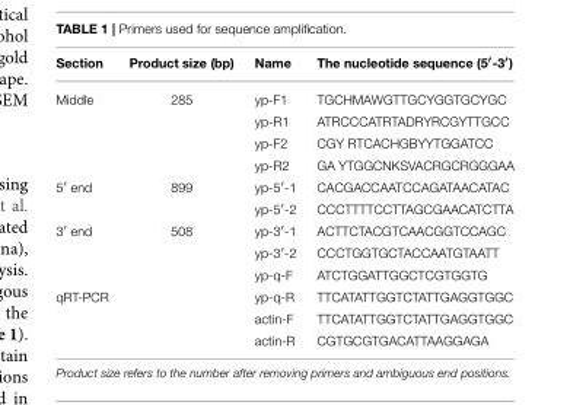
<table><thead><tr><td>Section</td><td>Product size (bp)</td><td>Name</td><td>The nucleotide sequence (5′-3′)</td></tr></thead><tbody><tr><td rowspan="4">Middle</td><td>285</td><td>yp-F1</td><td>TGCHMAWGTTGCYGGTGCYGC</td></tr><tr><td></td><td>yp-R1</td><td>ATRCCCATRTADRYRCGYTTGCC</td></tr><tr><td></td><td>yp-F2</td><td>CGY RTCACHGBYYTGGATCC</td></tr><tr><td></td><td>yp-R2</td><td>GA YTGGCNKSVACRGCRGGGAA</td></tr><tr><td rowspan="2">5′ end</td><td>899</td><td>yp-5′-1</td><td>CACGACCAATCCAGATAACATAC</td></tr><tr><td></td><td>yp-5′-2</td><td>CCCTTTTCCTTAGCGAACATCTTA</td></tr><tr><td rowspan="3">3′ end</td><td>508</td><td>yp-3′-1</td><td>ACTTCTACGTCAACGGTCCAGC</td></tr><tr><td></td><td>yp-3′-2</td><td>CCCTGGTGCTACCAATGTAATT</td></tr><tr><td></td><td>yp-q-F</td><td>ATCTGGATTGGCTCGTGGTG</td></tr><tr><td rowspan="3">qRT-PCR</td><td></td><td>yp-q-R</td><td>TTCATATTGGTCTATTGAGGTGGC</td></tr><tr><td></td><td>actin-F</td><td>TTCATATTGGTCTATTGAGGTGGC</td></tr><tr><td></td><td>actin-R</td><td>CGTGCGTGACATTAAGGAGA</td></tr></tbody></table>